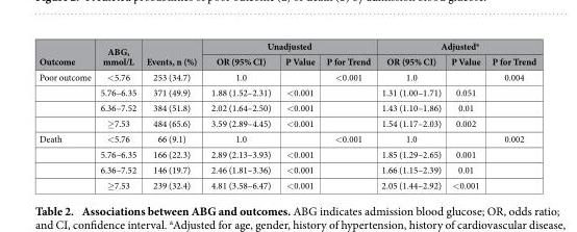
<table><thead><tr><td rowspan="2">Outcome</td><td rowspan="2">ABG, mmol/L</td><td rowspan="2">Events, n (%)</td><td colspan="3">Unadjusted</td><td colspan="3">Adjusted<sup>a</sup></td></tr><tr><td>OR (95% CI)</td><td>P Value</td><td>P for Trend</td><td>OR (95% CI)</td><td>P Value</td><td>P for Trend</td></tr></thead><tbody><tr><td rowspan="4">Poor outcome</td><td>&lt; 5.76</td><td>253 (34.7)</td><td>1.0</td><td></td><td>&lt; 0.001</td><td>1.0</td><td></td><td>0.004</td></tr><tr><td>5.76–6.35</td><td>371 (49.9)</td><td>1.88 (1.52–2.31)</td><td>&lt; 0.001</td><td></td><td>1.31 (1.00–1.71)</td><td>0.051</td><td></td></tr><tr><td>6.36–7.52</td><td>384 (51.8)</td><td>2.02 (1.64–2.50)</td><td>&lt; 0.001</td><td></td><td>1.43 (1.10–1.86)</td><td>0.01</td><td></td></tr><tr><td>≥ 7.53</td><td>484 (65.6)</td><td>3.59 (2.89–4.45)</td><td>&lt; 0.001</td><td></td><td>1.54 (1.17–2.03)</td><td>0.002</td><td></td></tr><tr><td rowspan="4">Death</td><td>&lt; 5.76</td><td>66 (9.1)</td><td>1.0</td><td></td><td>&lt; 0.001</td><td>1.0</td><td></td><td>0.002</td></tr><tr><td>5.76–6.35</td><td>166 (22.3)</td><td>2.89 (2.13–3.93)</td><td>&lt; 0.001</td><td></td><td>1.85 (1.29–2.65)</td><td>0.001</td><td></td></tr><tr><td>6.36–7.52</td><td>146 (19.7)</td><td>2.46 (1.81–3.36)</td><td>&lt; 0.001</td><td></td><td>1.66 (1.15–2.39)</td><td>0.01</td><td></td></tr><tr><td>≥ 7.53</td><td>239 (32.4)</td><td>4.81 (3.58–6.47)</td><td>&lt; 0.001</td><td></td><td>2.05 (1.44–2.92)</td><td>&lt; 0.001</td><td></td></tr></tbody></table>